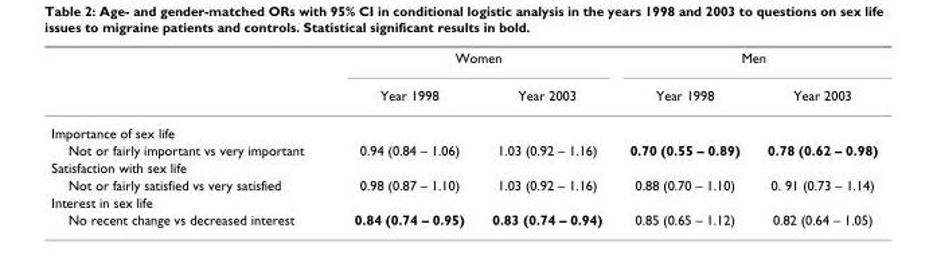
<table><thead><tr><td rowspan="2"></td><td colspan="2">Women</td><td colspan="2">Men</td></tr><tr><td>Year 1998</td><td>Year 2003</td><td>Year 1998</td><td>Year 2003</td></tr></thead><tbody><tr><td colspan="5">Importance of sex life</td></tr><tr><td>Not or fairly important vs very important</td><td>0.94 (0.84 – 1.06)</td><td>1.03 (0.92 – 1.16)</td><td>0.70 (0.55 – 0.89)</td><td>0.78 (0.62 – 0.98)</td></tr><tr><td colspan="5">Satisfaction with sex life</td></tr><tr><td>Not or fairly satisfied vs very satisfied</td><td>0.98 (0.87 – 1.10)</td><td>1.03 (0.92 – 1.16)</td><td>0.88 (0.70 – 1.10)</td><td>0. 91 (0.73 – 1.14)</td></tr><tr><td colspan="5">Interest in sex life</td></tr><tr><td>No recent change vs decreased interest</td><td>0.84 (0.74 – 0.95)</td><td>0.83 (0.74 – 0.94)</td><td>0.85 (0.65 – 1.12)</td><td>0.82 (0.64 – 1.05)</td></tr></tbody></table>